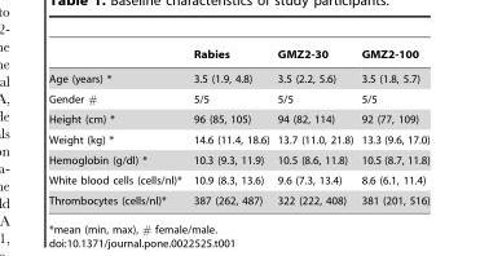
<table><thead><tr><td></td><td>Rabies</td><td>GMZ2-30</td><td>GMZ2-100</td></tr></thead><tbody><tr><td>Age (years) *</td><td>3.5 (1.9, 4.8)</td><td>3.5 (2.2, 5.6)</td><td>3.5 (1.8, 5.7)</td></tr><tr><td>Gender #</td><td>5/5</td><td>5/5</td><td>5/5</td></tr><tr><td>Height (cm) *</td><td>96 (85, 105)</td><td>94 (82, 114)</td><td>92 (77, 109)</td></tr><tr><td>Weight (kg) *</td><td>14.6 (11.4, 18.6)</td><td>13.7 (11.0, 21.8)</td><td>13.3 (9.6, 17.0)</td></tr><tr><td>Hemoglobin (g/dl) *</td><td>10.3 (9.3, 11.9)</td><td>10.5 (8.6, 11.8)</td><td>10.5 (8.7, 11.8)</td></tr><tr><td>White blood cells (cells/nl)*</td><td>10.9 (8.3, 13.6)</td><td>9.6 (7.3, 13.4)</td><td>8.6 (6.1, 11.4)</td></tr><tr><td>Thrombocytes (cells/nl)*</td><td>387 (262, 487)</td><td>322 (222, 408)</td><td>381 (201, 516)</td></tr></tbody></table>